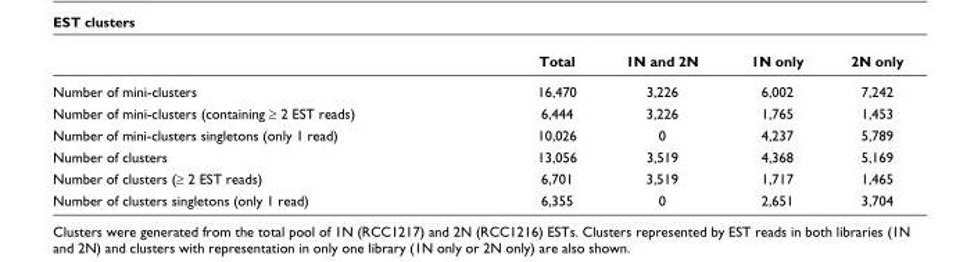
<table><thead><tr><td></td><td>Total</td><td>1N and 2N</td><td>1N only</td><td>2N only</td></tr></thead><tbody><tr><td>Number of mini-clusters</td><td>16,470</td><td>3,226</td><td>6,002</td><td>7,242</td></tr><tr><td>Number of mini-clusters (containing ≥ 2 EST reads)</td><td>6,444</td><td>3,226</td><td>1,765</td><td>1,453</td></tr><tr><td>Number of mini-clusters singletons (only 1 read)</td><td>10,026</td><td>0</td><td>4,237</td><td>5,789</td></tr><tr><td>Number of clusters</td><td>13,056</td><td>3,519</td><td>4,368</td><td>5,169</td></tr><tr><td>Number of clusters (≥ 2 EST reads)</td><td>6,701</td><td>3,519</td><td>1,717</td><td>1,465</td></tr><tr><td>Number of clusters singletons (only 1 read)</td><td>6,355</td><td>0</td><td>2,651</td><td>3,704</td></tr></tbody></table>